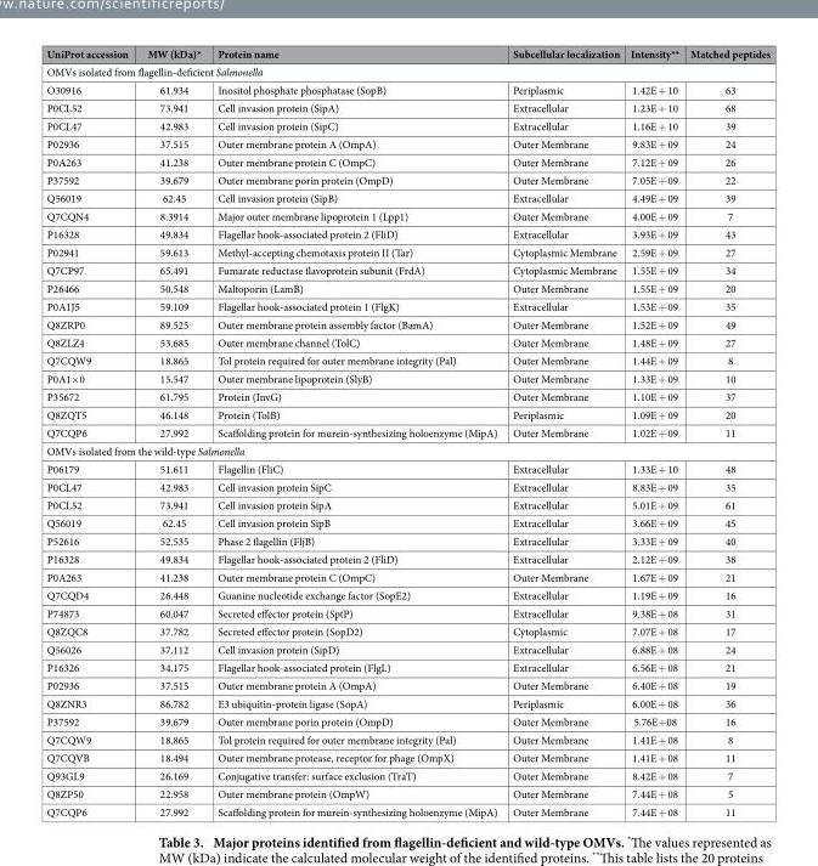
<table><thead><tr><td>UniProt accession</td><td>MW (kDa)*</td><td>Protein name</td><td>Subcellular localization</td><td>Intensity**</td><td>Matched peptides</td></tr></thead><tbody><tr><td colspan="6">OMVs isolated from flagellin-deficient Salmonella</td></tr><tr><td>O30916</td><td>61.934</td><td>Inositol phosphate phosphatase (SopB)</td><td>Periplasmic</td><td>1.42E + 10</td><td>63</td></tr><tr><td>P0CL52</td><td>73.941</td><td>Cell invasion protein (SipA)</td><td>Extracellular</td><td>1.23E + 10</td><td>68</td></tr><tr><td>P0CL47</td><td>42.983</td><td>Cell invasion protein (SipC)</td><td>Extracellular</td><td>1.16E + 10</td><td>39</td></tr><tr><td>P02936</td><td>37.515</td><td>Outer membrane protein A (OmpA)</td><td>Outer Membrane</td><td>9.83E + 09</td><td>24</td></tr><tr><td>P0A263</td><td>41.238</td><td>Outer membrane protein C (OmpC)</td><td>Outer Membrane</td><td>7.12E + 09</td><td>26</td></tr><tr><td>P37592</td><td>39.679</td><td>Outer membrane porin protein (OmpD)</td><td>Outer Membrane</td><td>7.05E + 09</td><td>22</td></tr><tr><td>Q56019</td><td>62.45</td><td>Cell invasion protein (SipB)</td><td>Extracellular</td><td>4.49E + 09</td><td>39</td></tr><tr><td>Q7CQN4</td><td>8.3914</td><td>Major outer membrane lipoprotein 1 (Lpp1)</td><td>Outer Membrane</td><td>4.00E + 09</td><td>7</td></tr><tr><td>P16328</td><td>49.834</td><td>Flagellar hook-associated protein 2 (FliD)</td><td>Extracellular</td><td>3.93E + 09</td><td>43</td></tr><tr><td>P02941</td><td>59.613</td><td>Methyl-accepting chemotaxis protein II (Tar)</td><td>Cytoplasmic Membrane</td><td>2.59E + 09</td><td>27</td></tr><tr><td>Q7CP97</td><td>65.491</td><td>Fumarate reductase flavoprotein subunit (FrdA)</td><td>Cytoplasmic Membrane</td><td>1.55E + 09</td><td>34</td></tr><tr><td>P26466</td><td>50.548</td><td>Maltoporin (LamB)</td><td>Outer Membrane</td><td>1.55E + 09</td><td>20</td></tr><tr><td>P0A1J5</td><td>59.109</td><td>Flagellar hook-associated protein 1 (FlgK)</td><td>Extracellular</td><td>1.53E + 09</td><td>35</td></tr><tr><td>Q8ZRP0</td><td>89.525</td><td>Outer membrane protein assembly factor (BamA)</td><td>Outer Membrane</td><td>1.52E + 09</td><td>49</td></tr><tr><td>Q8ZLZ4</td><td>53.685</td><td>Outer membrane channel (TolC)</td><td>Outer Membrane</td><td>1.48E + 09</td><td>27</td></tr><tr><td>Q7CQW9</td><td>18.865</td><td>Tol protein required for outer membrane integrity (Pal)</td><td>Outer Membrane</td><td>1.44E + 09</td><td>8</td></tr><tr><td>P0A1× 0</td><td>15.547</td><td>Outer membrane lipoprotein (SlyB)</td><td>Outer Membrane</td><td>1.33E + 09</td><td>10</td></tr><tr><td>P35672</td><td>61.795</td><td>Protein (InvG)</td><td>Outer Membrane</td><td>1.10E + 09</td><td>37</td></tr><tr><td>Q8ZQT5</td><td>46.148</td><td>Protein (TolB)</td><td>Periplasmic</td><td>1.09E + 09</td><td>20</td></tr><tr><td>Q7CQP6</td><td>27.992</td><td>Scaffolding protein for murein-synthesizing holoenzyme (MipA)</td><td>Outer Membrane</td><td>1.02E + 09</td><td>11</td></tr><tr><td colspan="6">OMVs isolated from the wild-type Salmonella</td></tr><tr><td>P06179</td><td>51.611</td><td>Flagellin (FliC)</td><td>Extracellular</td><td>1.33E + 10</td><td>48</td></tr><tr><td>P0CL47</td><td>42.983</td><td>Cell invasion protein SipC</td><td>Extracellular</td><td>8.83E + 09</td><td>35</td></tr><tr><td>P0CL52</td><td>73.941</td><td>Cell invasion protein SipA</td><td>Extracellular</td><td>5.01E + 09</td><td>61</td></tr><tr><td>Q56019</td><td>62.45</td><td>Cell invasion protein SipB</td><td>Extracellular</td><td>3.66E + 09</td><td>45</td></tr><tr><td>P52616</td><td>52.535</td><td>Phase 2 flagellin (FljB)</td><td>Extracellular</td><td>3.33E + 09</td><td>40</td></tr><tr><td>P16328</td><td>49.834</td><td>Flagellar hook-associated protein 2 (FliD)</td><td>Extracellular</td><td>2.12E + 09</td><td>38</td></tr><tr><td>P0A263</td><td>41.238</td><td>Outer membrane protein C (OmpC)</td><td>Outer Membrane</td><td>1.67E + 09</td><td>21</td></tr><tr><td>Q7CQD4</td><td>26.448</td><td>Guanine nucleotide exchange factor (SopE2)</td><td>Extracellular</td><td>1.19E + 09</td><td>16</td></tr><tr><td>P74873</td><td>60.047</td><td>Secreted effector protein (SptP)</td><td>Extracellular</td><td>9.38E + 08</td><td>31</td></tr><tr><td>Q8ZQC8</td><td>37.782</td><td>Secreted effector protein (SopD2)</td><td>Cytoplasmic</td><td>7.07E + 08</td><td>17</td></tr><tr><td>Q56026</td><td>37.112</td><td>Cell invasion protein (SipD)</td><td>Extracellular</td><td>6.88E + 08</td><td>24</td></tr><tr><td>P16326</td><td>34.175</td><td>Flagellar hook-associated protein (FlgL)</td><td>Extracellular</td><td>6.56E + 08</td><td>21</td></tr><tr><td>P02936</td><td>37.515</td><td>Outer membrane protein A (OmpA)</td><td>Outer Membrane</td><td>6.40E + 08</td><td>19</td></tr><tr><td>Q8ZNR3</td><td>86.782</td><td>E3 ubiquitin-protein ligase (SopA)</td><td>Periplasmic</td><td>6.00E + 08</td><td>36</td></tr><tr><td>P37592</td><td>39.679</td><td>Outer membrane porin protein (OmpD)</td><td>Outer Membrane</td><td>5.76E+ 08</td><td>16</td></tr><tr><td>Q7CQW9</td><td>18.865</td><td>Tol protein required for outer membrane integrity (Pal)</td><td>Outer Membrane</td><td>1.41E + 08</td><td>8</td></tr><tr><td>Q7CQVB</td><td>18.494</td><td>Outer membrane protease, receptor for phage (OmpX)</td><td>Outer Membrane</td><td>1.41E + 08</td><td>11</td></tr><tr><td>Q93GL9</td><td>26.169</td><td>Conjugative transfer: surface exclusion (TraT)</td><td>Outer Membrane</td><td>8.42E + 08</td><td>7</td></tr><tr><td>Q8ZP50</td><td>22.958</td><td>Outer membrane protein (OmpW)</td><td>Outer Membrane</td><td>7.44E + 08</td><td>5</td></tr><tr><td>Q7CQP6</td><td>27.992</td><td>Scaffolding protein for murein-synthesizing holoenzyme (MipA)</td><td>Outer Membrane</td><td>7.44E + 08</td><td>11</td></tr></tbody></table>